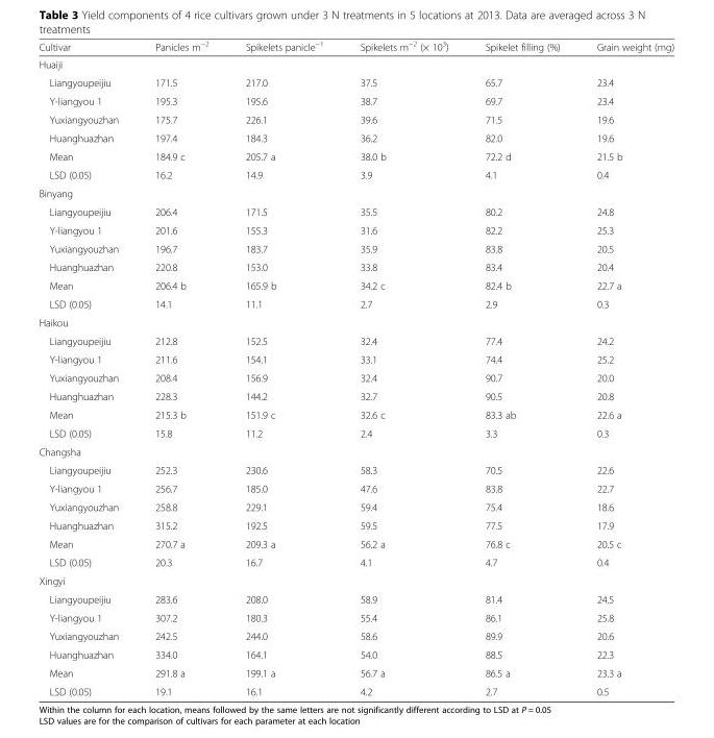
<table><thead><tr><td>Cultivar</td><td>Panicles m<sup>−2</sup></td><td>Spikelets panicle<sup>−1</sup></td><td>Spikelets m<sup>−2</sup> (× 10<sup>3</sup>)</td><td>Spikelet filling (%)</td><td>Grain weight (mg)</td></tr></thead><tbody><tr><td colspan="6">Huaiji</td></tr><tr><td>Liangyoupeijiu</td><td>171.5</td><td>217.0</td><td>37.5</td><td>65.7</td><td>23.4</td></tr><tr><td>Y-liangyou 1</td><td>195.3</td><td>195.6</td><td>38.7</td><td>69.7</td><td>23.4</td></tr><tr><td>Yuxiangyouzhan</td><td>175.7</td><td>226.1</td><td>39.6</td><td>71.5</td><td>19.6</td></tr><tr><td>Huanghuazhan</td><td>197.4</td><td>184.3</td><td>36.2</td><td>82.0</td><td>19.6</td></tr><tr><td>Mean</td><td>184.9 c</td><td>205.7 a</td><td>38.0 b</td><td>72.2 d</td><td>21.5 b</td></tr><tr><td>LSD (0.05)</td><td>16.2</td><td>14.9</td><td>3.9</td><td>4.1</td><td>0.4</td></tr><tr><td colspan="6">Binyang</td></tr><tr><td>Liangyoupeijiu</td><td>206.4</td><td>171.5</td><td>35.5</td><td>80.2</td><td>24.8</td></tr><tr><td>Y-liangyou 1</td><td>201.6</td><td>155.3</td><td>31.6</td><td>82.2</td><td>25.3</td></tr><tr><td>Yuxiangyouzhan</td><td>196.7</td><td>183.7</td><td>35.9</td><td>83.8</td><td>20.5</td></tr><tr><td>Huanghuazhan</td><td>220.8</td><td>153.0</td><td>33.8</td><td>83.4</td><td>20.4</td></tr><tr><td>Mean</td><td>206.4 b</td><td>165.9 b</td><td>34.2 c</td><td>82.4 b</td><td>22.7 a</td></tr><tr><td>LSD (0.05)</td><td>14.1</td><td>11.1</td><td>2.7</td><td>2.9</td><td>0.3</td></tr><tr><td colspan="6">Haikou</td></tr><tr><td>Liangyoupeijiu</td><td>212.8</td><td>152.5</td><td>32.4</td><td>77.4</td><td>24.2</td></tr><tr><td>Y-liangyou 1</td><td>211.6</td><td>154.1</td><td>33.1</td><td>74.4</td><td>25.2</td></tr><tr><td>Yuxiangyouzhan</td><td>208.4</td><td>156.9</td><td>32.4</td><td>90.7</td><td>20.0</td></tr><tr><td>Huanghuazhan</td><td>228.3</td><td>144.2</td><td>32.7</td><td>90.5</td><td>20.8</td></tr><tr><td>Mean</td><td>215.3 b</td><td>151.9 c</td><td>32.6 c</td><td>83.3 ab</td><td>22.6 a</td></tr><tr><td>LSD (0.05)</td><td>15.8</td><td>11.2</td><td>2.4</td><td>3.3</td><td>0.3</td></tr><tr><td colspan="6">Changsha</td></tr><tr><td>Liangyoupeijiu</td><td>252.3</td><td>230.6</td><td>58.3</td><td>70.5</td><td>22.6</td></tr><tr><td>Y-liangyou 1</td><td>256.7</td><td>185.0</td><td>47.6</td><td>83.8</td><td>22.7</td></tr><tr><td>Yuxiangyouzhan</td><td>258.8</td><td>229.1</td><td>59.4</td><td>75.4</td><td>18.6</td></tr><tr><td>Huanghuazhan</td><td>315.2</td><td>192.5</td><td>59.5</td><td>77.5</td><td>17.9</td></tr><tr><td>Mean</td><td>270.7 a</td><td>209.3 a</td><td>56.2 a</td><td>76.8 c</td><td>20.5 c</td></tr><tr><td>LSD (0.05)</td><td>20.3</td><td>16.7</td><td>4.1</td><td>4.7</td><td>0.4</td></tr><tr><td colspan="6">Xingyi</td></tr><tr><td>Liangyoupeijiu</td><td>283.6</td><td>208.0</td><td>58.9</td><td>81.4</td><td>24.5</td></tr><tr><td>Y-liangyou 1</td><td>307.2</td><td>180.3</td><td>55.4</td><td>86.1</td><td>25.8</td></tr><tr><td>Yuxiangyouzhan</td><td>242.5</td><td>244.0</td><td>58.6</td><td>89.9</td><td>20.6</td></tr><tr><td>Huanghuazhan</td><td>334.0</td><td>164.1</td><td>54.0</td><td>88.5</td><td>22.3</td></tr><tr><td>Mean</td><td>291.8 a</td><td>199.1 a</td><td>56.7 a</td><td>86.5 a</td><td>23.3 a</td></tr><tr><td>LSD (0.05)</td><td>19.1</td><td>16.1</td><td>4.2</td><td>2.7</td><td>0.5</td></tr></tbody></table>